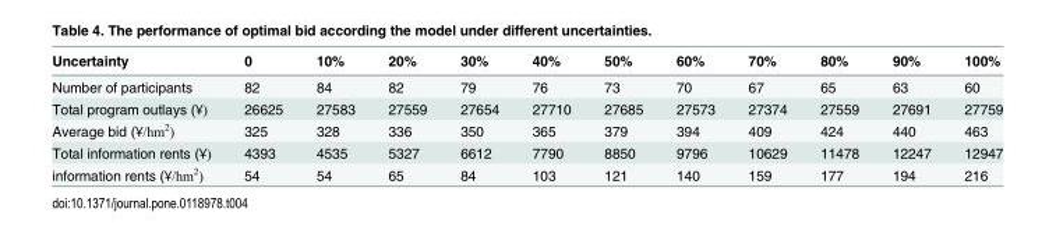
<table><thead><tr><td>Uncertainty</td><td>0</td><td>10%</td><td>20%</td><td>30%</td><td>40%</td><td>50%</td><td>60%</td><td>70%</td><td>80%</td><td>90%</td><td>100%</td></tr></thead><tbody><tr><td>Number of participants</td><td>82</td><td>84</td><td>82</td><td>79</td><td>76</td><td>73</td><td>70</td><td>67</td><td>65</td><td>63</td><td>60</td></tr><tr><td>Total program outlays (Ұ)</td><td>26625</td><td>27583</td><td>27559</td><td>27654</td><td>27710</td><td>27685</td><td>27573</td><td>27374</td><td>27559</td><td>27691</td><td>27759</td></tr><tr><td>Average bid (Ұ/hm<sup>2</sup>)</td><td>325</td><td>328</td><td>336</td><td>350</td><td>365</td><td>379</td><td>394</td><td>409</td><td>424</td><td>440</td><td>463</td></tr><tr><td>Total information rents (Ұ)</td><td>4393</td><td>4535</td><td>5327</td><td>6612</td><td>7790</td><td>8850</td><td>9796</td><td>10629</td><td>11478</td><td>12247</td><td>12947</td></tr><tr><td>information rents (Ұ/hm<sup>2</sup>)</td><td>54</td><td>54</td><td>65</td><td>84</td><td>103</td><td>121</td><td>140</td><td>159</td><td>177</td><td>194</td><td>216</td></tr></tbody></table>